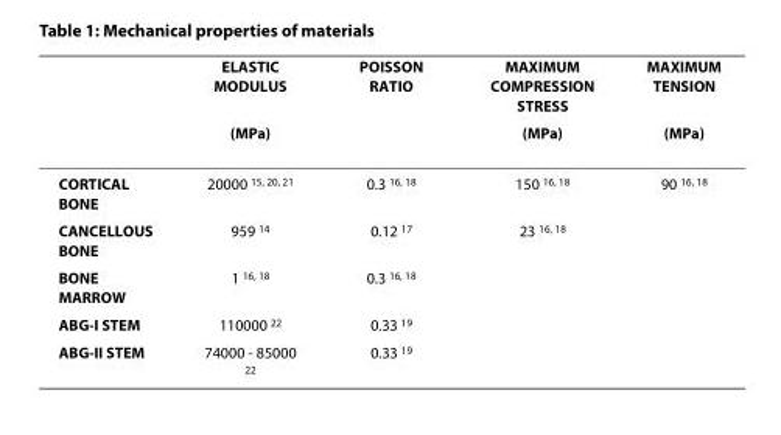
<table><thead><tr><td rowspan="2"></td><td rowspan="2">ELASTIC MODULUS (MPa)</td><td rowspan="2">POISSON RATIO</td><td rowspan="2">MAXIMUM COMPRESSION STRESS (MPa)</td><td rowspan="2">MAXIMUM TENSION (MPa)</td></tr><tr></tr></thead><tbody><tr><td>CORTICAL BONE</td><td>20000 <sup>15, 20, 21</sup></td><td>0.3 <sup>16, 18</sup></td><td>150 <sup>16, 18</sup></td><td>90 <sup>16, 18</sup></td></tr><tr><td>CANCELLOUS BONE</td><td>959 <sup>14</sup></td><td>0.12 <sup>17</sup></td><td>23 <sup>16, 18</sup></td><td></td></tr><tr><td>BONE MARROW</td><td>1 <sup>16, 18</sup></td><td>0.3 <sup>16, 18</sup></td><td></td><td></td></tr><tr><td>ABG-I STEM</td><td>110000 <sup>22</sup></td><td>0.33 <sup>19</sup></td><td></td><td></td></tr><tr><td>ABG-II STEM</td><td>74000 - 85000 <sup>22</sup></td><td>0.33 <sup>19</sup></td><td></td><td></td></tr></tbody></table>